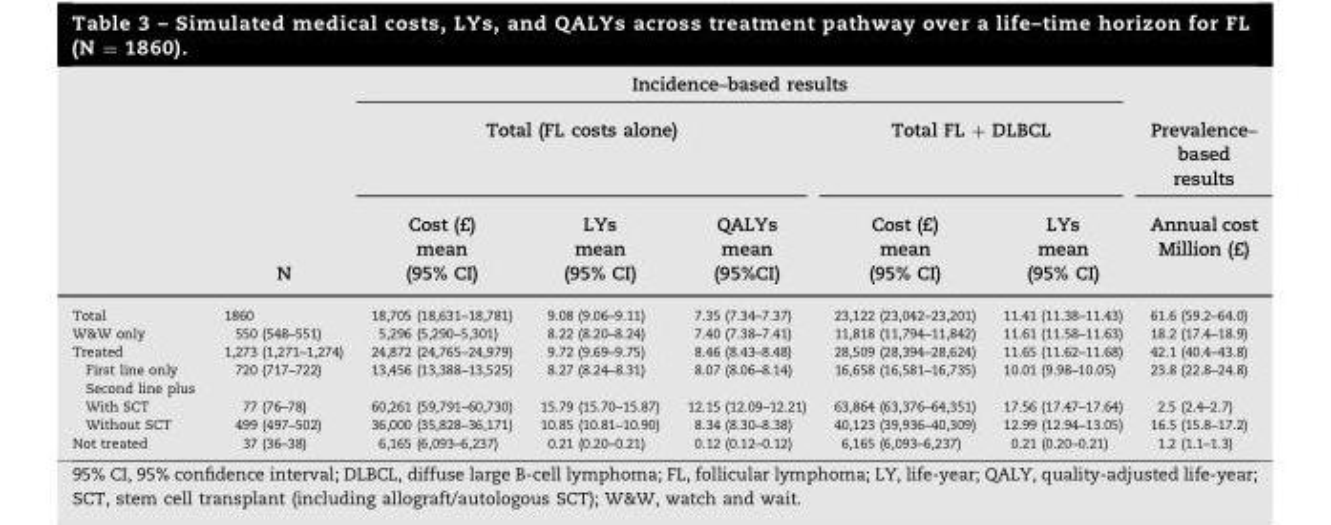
<table><thead><tr><td rowspan="4"></td><td rowspan="4">N</td><td colspan="5">Incidence–based results</td><td rowspan="4">Prevalence– based results Annual cost Million (£)</td></tr><tr><td colspan="3">Total (FL costs alone)</td><td colspan="2">Total FL + DLBCL</td></tr><tr><td rowspan="2">Cost (£) mean (95% CI)</td><td rowspan="2">LYs mean (95% CI)</td><td rowspan="2">QALYs mean (95%CI)</td><td rowspan="2">Cost (£) mean (95% CI)</td><td rowspan="2">LYs mean (95% CI)</td></tr><tr></tr></thead><tbody><tr><td>Total</td><td>1860</td><td>18,705 (18,631–18,781)</td><td>9.08 (9.06–9.11)</td><td>7.35 (7.34–7.37)</td><td>23,122 (23,042–23,201)</td><td>11.41 (11.38–11.43)</td><td>61.6 (59.2–64.0)</td></tr><tr><td>W&amp;W only</td><td>550 (548–551)</td><td>5,296 (5,290–5,301)</td><td>8.22 (8.20–8.24)</td><td>7.40 (7.38–7.41)</td><td>11,818 (11,794–11,842)</td><td>11.61 (11.58–11.63)</td><td>18.2 (17.4–18.9)</td></tr><tr><td>Treated</td><td>1,273 (1,271–1,274)</td><td>24,872 (24,765–24,979)</td><td>9.72 (9.69–9.75)</td><td>8.46 (8.43–8.48)</td><td>28,509 (28,394–28,624)</td><td>11.65 (11.62–11.68)</td><td>42.1 (40.4–43.8)</td></tr><tr><td>First line only</td><td>720 (717–722)</td><td>13,456 (13,388–13,525)</td><td>8.27 (8.24–8.31)</td><td>8.07 (8.06–8.14)</td><td>16,658 (16,581–16,735)</td><td>10.01 (9.98–10.05)</td><td>23.8 (22.8–24.8)</td></tr><tr><td colspan="8">Second line plus</td></tr><tr><td>With SCT</td><td>77 (76–78)</td><td>60,261 (59,791–60,730)</td><td>15.79 (15.70–15.87)</td><td>12.15 (12.09–12.21)</td><td>63,864 (63,376–64,351)</td><td>17.56 (17.47–17.64)</td><td>2.5 (2.4–2.7)</td></tr><tr><td>Without SCT</td><td>499 (497–502)</td><td>36,000 (35,828–36,171)</td><td>10.85 (10.81–10.90)</td><td>8.34 (8.30–8.38)</td><td>40,123 (39,936–40,309)</td><td>12.99 (12.94–13.05)</td><td>16.5 (15.8–17.2)</td></tr><tr><td>Not treated</td><td>37 (36–38)</td><td>6,165 (6,093–6,237)</td><td>0.21 (0.20–0.21)</td><td>0.12 (0.12–0.12)</td><td>6,165 (6,093–6,237)</td><td>0.21 (0.20–0.21)</td><td>1.2 (1.1–1.3)</td></tr></tbody></table>